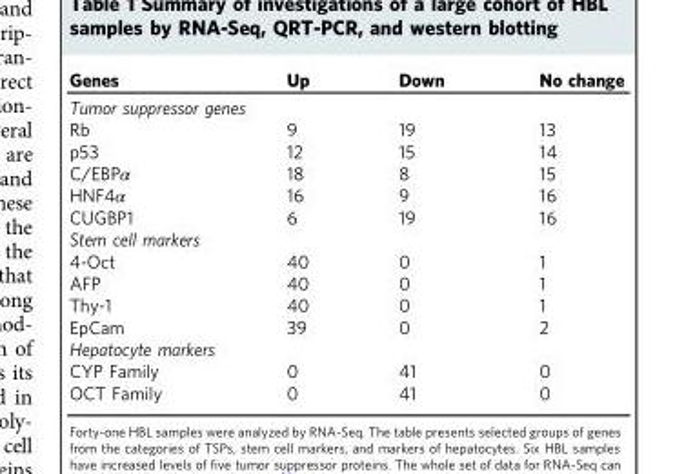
<table><thead><tr><td>Genes</td><td>Up</td><td>Down</td><td>No change</td></tr></thead><tbody><tr><td colspan="4">Tumor suppressor genes</td></tr><tr><td>Rb</td><td>9</td><td>19</td><td>13</td></tr><tr><td>p53</td><td>12</td><td>15</td><td>14</td></tr><tr><td>C/EBPα</td><td>18</td><td>8</td><td>15</td></tr><tr><td>HNF4α</td><td>16</td><td>9</td><td>16</td></tr><tr><td>CUGBP1</td><td>6</td><td>19</td><td>16</td></tr><tr><td colspan="4">Stem cell markers</td></tr><tr><td>4-Oct</td><td>40</td><td>0</td><td>1</td></tr><tr><td>AFP</td><td>40</td><td>0</td><td>1</td></tr><tr><td>Thy-1</td><td>40</td><td>0</td><td>1</td></tr><tr><td>EpCam</td><td>39</td><td>0</td><td>2</td></tr><tr><td colspan="4">Hepatocyte markers</td></tr><tr><td>CYP Family</td><td>0</td><td>41</td><td>0</td></tr><tr><td>OCT Family</td><td>0</td><td>41</td><td>0</td></tr></tbody></table>